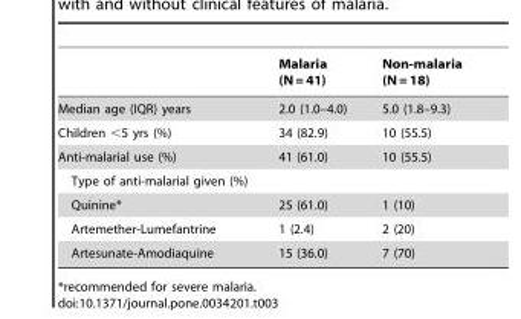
<table><thead><tr><td></td><td>Malaria (N = 41)</td><td>Non-malaria (N = 18)</td></tr></thead><tbody><tr><td>Median age (IQR) years</td><td>2.0 (1.0–4.0)</td><td>5.0 (1.8–9.3)</td></tr><tr><td>Children &lt;5 yrs (%)</td><td>34 (82.9)</td><td>10 (55.5)</td></tr><tr><td>Anti-malarial use (%)</td><td>41 (61.0)</td><td>10 (55.5)</td></tr><tr><td colspan="3">Type of anti-malarial given (%)</td></tr><tr><td>Quinine*</td><td>25 (61.0)</td><td>1 (10)</td></tr><tr><td>Artemether-Lumefantrine</td><td>1 (2.4)</td><td>2 (20)</td></tr><tr><td>Artesunate-Amodiaquine</td><td>15 (36.0)</td><td>7 (70)</td></tr></tbody></table>